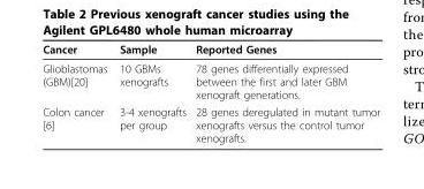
<table><thead><tr><td>Cancer</td><td>Sample</td><td>Reported Genes</td></tr></thead><tbody><tr><td>Glioblastomas (GBM)[20]</td><td>10 GBMs xenografts</td><td>78 genes differentially expressed between the first and later GBM xenograft generations.</td></tr><tr><td>Colon cancer [6]</td><td>3-4 xenografts per group</td><td>28 genes deregulated in mutant tumor xenografts versus the control tumor xenografts.</td></tr></tbody></table>